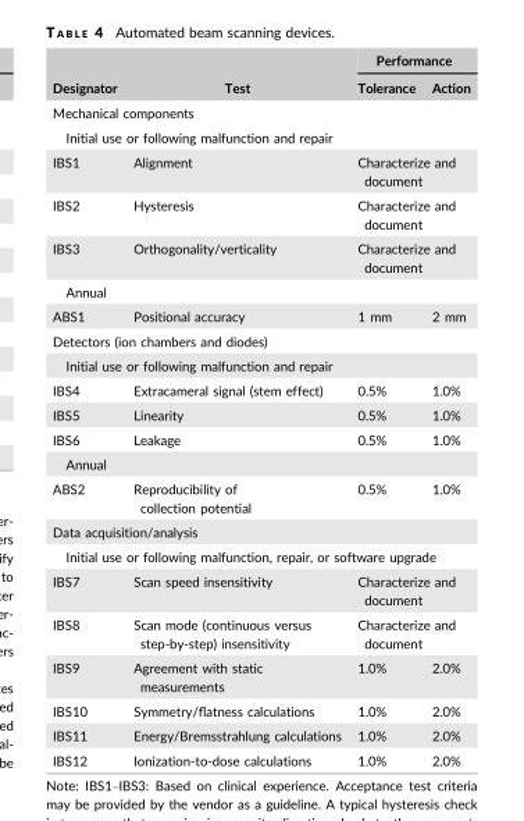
<table><thead><tr><td rowspan="2">Designator</td><td rowspan="2">Test</td><td colspan="2">Performance</td></tr><tr><td>Tolerance</td><td>Action</td></tr></thead><tbody><tr><td colspan="4">Mechanical components</td></tr><tr><td colspan="4">Initial use or following malfunction and repair</td></tr><tr><td>IBS1</td><td>Alignment</td><td colspan="2">Characterize and document</td></tr><tr><td>IBS2</td><td>Hysteresis</td><td colspan="2">Characterize and document</td></tr><tr><td>IBS3</td><td>Orthogonality/verticality</td><td colspan="2">Characterize and document</td></tr><tr><td colspan="4">Annual</td></tr><tr><td>ABS1</td><td>Positional accuracy</td><td>1 mm</td><td>2 mm</td></tr><tr><td colspan="4">Detectors (ion chambers and diodes)</td></tr><tr><td colspan="4">Initial use or following malfunction and repair</td></tr><tr><td>IBS4</td><td>Extracameral signal (stem effect)</td><td>0.5%</td><td>1.0%</td></tr><tr><td>IBS5</td><td>Linearity</td><td>0.5%</td><td>1.0%</td></tr><tr><td>IBS6</td><td>Leakage</td><td>0.5%</td><td>1.0%</td></tr><tr><td colspan="4">Annual</td></tr><tr><td>ABS2</td><td>Reproducibility of collection potential</td><td>0.5%</td><td>1.0%</td></tr><tr><td colspan="4">Data acquisition/analysis</td></tr><tr><td colspan="4">Initial use or following malfunction, repair, or software upgrade</td></tr><tr><td>IBS7</td><td>Scan speed insensitivity</td><td colspan="2">Characterize and document</td></tr><tr><td>IBS8</td><td>Scan mode (continuous versus step-by-step) insensitivity</td><td colspan="2">Characterize and document</td></tr><tr><td>IBS9</td><td>Agreement with static measurements</td><td>1.0%</td><td>2.0%</td></tr><tr><td>IBS10</td><td>Symmetry/flatness calculations</td><td>1.0%</td><td>2.0%</td></tr><tr><td>IBS11</td><td>Energy/Bremsstrahlung calculations</td><td>1.0%</td><td>2.0%</td></tr><tr><td>IBS12</td><td>Ionization-to-dose calculations</td><td>1.0%</td><td>2.0%</td></tr></tbody></table>